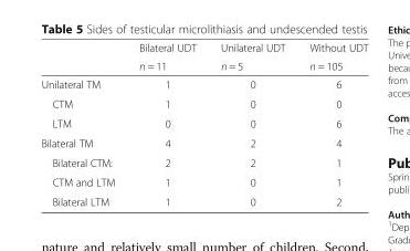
<table><thead><tr><td rowspan="2"></td><td rowspan="2">Bilateral UDT n = 11</td><td rowspan="2">Unilateral UDT n = 5</td><td rowspan="2">Without UDT n = 105</td></tr><tr></tr></thead><tbody><tr><td>Unilateral TM</td><td>1</td><td>0</td><td>6</td></tr><tr><td>CTM</td><td>1</td><td>0</td><td>0</td></tr><tr><td>LTM</td><td>0</td><td>0</td><td>6</td></tr><tr><td>Bilateral TM</td><td>4</td><td>2</td><td>4</td></tr><tr><td>Bilateral CTM:</td><td>2</td><td>2</td><td>1</td></tr><tr><td>CTM and LTM</td><td>1</td><td>0</td><td>1</td></tr><tr><td>Bilateral LTM</td><td>1</td><td>0</td><td>2</td></tr></tbody></table>